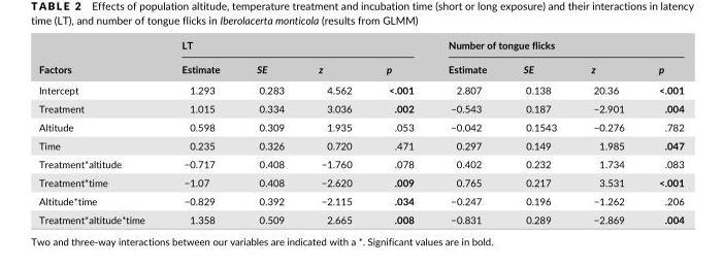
<table><thead><tr><td rowspan="2">Factors</td><td colspan="4">LT</td><td colspan="4">Number of tongue flicks</td></tr><tr><td>Estimate</td><td>SE</td><td>z</td><td>p</td><td>Estimate</td><td>SE</td><td>z</td><td>p</td></tr></thead><tbody><tr><td>Intercept</td><td>1.293</td><td>0.283</td><td>4.562</td><td>&lt;.001</td><td>2.807</td><td>0.138</td><td>20.36</td><td>&lt;.001</td></tr><tr><td>Treatment</td><td>1.015</td><td>0.334</td><td>3.036</td><td>.002</td><td>−0.543</td><td>0.187</td><td>−2.901</td><td>.004</td></tr><tr><td>Altitude</td><td>0.598</td><td>0.309</td><td>1.935</td><td>.053</td><td>−0.042</td><td>0.1543</td><td>−0.276</td><td>.782</td></tr><tr><td>Time</td><td>0.235</td><td>0.326</td><td>0.720</td><td>.471</td><td>0.297</td><td>0.149</td><td>1.985</td><td>.047</td></tr><tr><td>Treatment*altitude</td><td>−0.717</td><td>0.408</td><td>−1.760</td><td>.078</td><td>0.402</td><td>0.232</td><td>1.734</td><td>.083</td></tr><tr><td>Treatment*time</td><td>−1.07</td><td>0.408</td><td>−2.620</td><td>.009</td><td>0.765</td><td>0.217</td><td>3.531</td><td>&lt;.001</td></tr><tr><td>Altitude*time</td><td>−0.829</td><td>0.392</td><td>−2.115</td><td>.034</td><td>−0.247</td><td>0.196</td><td>−1.262</td><td>.206</td></tr><tr><td>Treatment*altitude*time</td><td>1.358</td><td>0.509</td><td>2.665</td><td>.008</td><td>−0.831</td><td>0.289</td><td>−2.869</td><td>.004</td></tr></tbody></table>